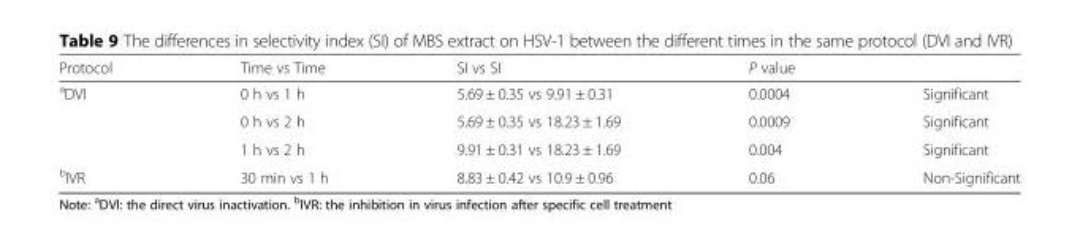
<table><thead><tr><td>Protocol</td><td>Time vs Time</td><td>SI vs SI</td><td>P value</td><td></td></tr></thead><tbody><tr><td rowspan="3"><sup>a</sup>DVI</td><td>0 h vs 1 h</td><td>5.69 ± 0.35 vs 9.91 ± 0.31</td><td>0.0004</td><td>Significant</td></tr><tr><td>0 h vs 2 h</td><td>5.69 ± 0.35 vs 18.23 ± 1.69</td><td>0.0009</td><td>Significant</td></tr><tr><td>1 h vs 2 h</td><td>9.91 ± 0.31 vs 18.23 ± 1.69</td><td>0.004</td><td>Significant</td></tr><tr><td><sup>b</sup>IVR</td><td>30 min vs 1 h</td><td>8.83 ± 0.42 vs 10.9 ± 0.96</td><td>0.06</td><td>Non-Significant</td></tr></tbody></table>